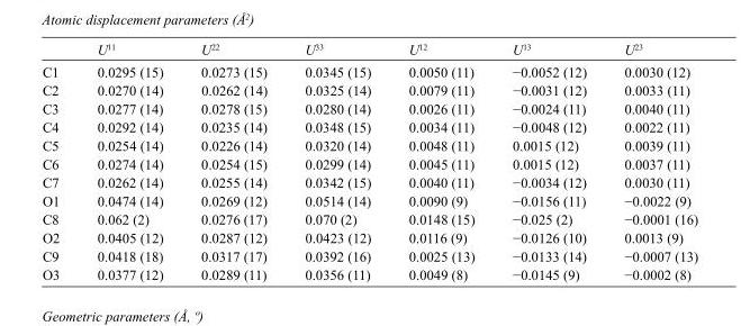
<table><thead><tr><td></td><td>U<sup>11</sup></td><td>U<sup>22</sup></td><td>U<sup>33</sup></td><td>U<sup>12</sup></td><td>U<sup>13</sup></td><td>U<sup>23</sup></td></tr></thead><tbody><tr><td>C1</td><td>0.0295 (15)</td><td>0.0273 (15)</td><td>0.0345 (15)</td><td>0.0050 (11)</td><td>−0.0052 (12)</td><td>0.0030 (12)</td></tr><tr><td>C2</td><td>0.0270 (14)</td><td>0.0262 (14)</td><td>0.0325 (14)</td><td>0.0079 (11)</td><td>−0.0031 (12)</td><td>0.0033 (11)</td></tr><tr><td>C3</td><td>0.0277 (14)</td><td>0.0278 (15)</td><td>0.0280 (14)</td><td>0.0026 (11)</td><td>−0.0024 (11)</td><td>0.0040 (11)</td></tr><tr><td>C4</td><td>0.0292 (14)</td><td>0.0235 (14)</td><td>0.0348 (15)</td><td>0.0034 (11)</td><td>−0.0048 (12)</td><td>0.0022 (11)</td></tr><tr><td>C5</td><td>0.0254 (14)</td><td>0.0226 (14)</td><td>0.0320 (14)</td><td>0.0048 (11)</td><td>0.0015 (12)</td><td>0.0039 (11)</td></tr><tr><td>C6</td><td>0.0274 (14)</td><td>0.0254 (15)</td><td>0.0299 (14)</td><td>0.0045 (11)</td><td>0.0015 (12)</td><td>0.0037 (11)</td></tr><tr><td>C7</td><td>0.0262 (14)</td><td>0.0255 (14)</td><td>0.0342 (15)</td><td>0.0040 (11)</td><td>−0.0034 (12)</td><td>0.0030 (11)</td></tr><tr><td>O1</td><td>0.0474 (14)</td><td>0.0269 (12)</td><td>0.0514 (14)</td><td>0.0090 (9)</td><td>−0.0156 (11)</td><td>−0.0022 (9)</td></tr><tr><td>C8</td><td>0.062 (2)</td><td>0.0276 (17)</td><td>0.070 (2)</td><td>0.0148 (15)</td><td>−0.025 (2)</td><td>−0.0001 (16)</td></tr><tr><td>O2</td><td>0.0405 (12)</td><td>0.0287 (12)</td><td>0.0423 (12)</td><td>0.0116 (9)</td><td>−0.0126 (10)</td><td>0.0013 (9)</td></tr><tr><td>C9</td><td>0.0418 (18)</td><td>0.0317 (17)</td><td>0.0392 (16)</td><td>0.0025 (13)</td><td>−0.0133 (14)</td><td>−0.0007 (13)</td></tr><tr><td>O3</td><td>0.0377 (12)</td><td>0.0289 (11)</td><td>0.0356 (11)</td><td>0.0049 (8)</td><td>−0.0145 (9)</td><td>−0.0002 (8)</td></tr></tbody></table>